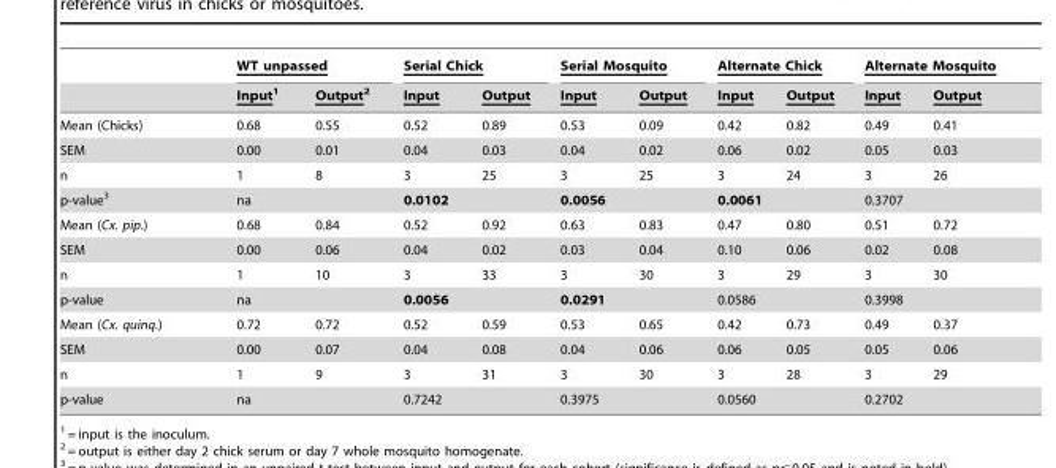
<table><thead><tr><td rowspan="2"></td><td colspan="2">WT unpassed</td><td colspan="2">Serial Chick</td><td colspan="2">Serial Mosquito</td><td colspan="2">Alternate Chick</td><td colspan="2">Alternate Mosquito</td></tr><tr><td>Input1</td><td>Output2</td><td>Input</td><td>Output</td><td>Input</td><td>Output</td><td>Input</td><td>Output</td><td>Input</td><td>Output</td></tr></thead><tbody><tr><td>Mean (Chicks)</td><td>0.68</td><td>0.55</td><td>0.52</td><td>0.89</td><td>0.53</td><td>0.09</td><td>0.42</td><td>0.82</td><td>0.49</td><td>0.41</td></tr><tr><td>SEM</td><td>0.00</td><td>0.01</td><td>0.04</td><td>0.03</td><td>0.04</td><td>0.02</td><td>0.06</td><td>0.02</td><td>0.05</td><td>0.03</td></tr><tr><td>n</td><td>1</td><td>8</td><td>3</td><td>25</td><td>3</td><td>25</td><td>3</td><td>24</td><td>3</td><td>26</td></tr><tr><td>p-value<sup>3</sup></td><td colspan="2">na</td><td colspan="2">0.0102</td><td colspan="2">0.0056</td><td colspan="2">0.0061</td><td colspan="2">0.3707</td></tr><tr><td>Mean (Cx. pip.)</td><td>0.68</td><td>0.84</td><td>0.52</td><td>0.92</td><td>0.63</td><td>0.83</td><td>0.47</td><td>0.80</td><td>0.51</td><td>0.72</td></tr><tr><td>SEM</td><td>0.00</td><td>0.06</td><td>0.04</td><td>0.02</td><td>0.03</td><td>0.04</td><td>0.10</td><td>0.06</td><td>0.02</td><td>0.08</td></tr><tr><td>n</td><td>1</td><td>10</td><td>3</td><td>33</td><td>3</td><td>30</td><td>3</td><td>29</td><td>3</td><td>30</td></tr><tr><td>p-value</td><td colspan="2">na</td><td colspan="2">0.0056</td><td colspan="2">0.0291</td><td colspan="2">0.0586</td><td colspan="2">0.3998</td></tr><tr><td>Mean (Cx. quinq.)</td><td>0.72</td><td>0.72</td><td>0.52</td><td>0.59</td><td>0.53</td><td>0.65</td><td>0.42</td><td>0.73</td><td>0.49</td><td>0.37</td></tr><tr><td>SEM</td><td>0.00</td><td>0.07</td><td>0.04</td><td>0.08</td><td>0.04</td><td>0.06</td><td>0.06</td><td>0.05</td><td>0.05</td><td>0.06</td></tr><tr><td>n</td><td>1</td><td>9</td><td>3</td><td>31</td><td>3</td><td>30</td><td>3</td><td>28</td><td>3</td><td>29</td></tr><tr><td>p-value</td><td colspan="2">na</td><td colspan="2">0.7242</td><td colspan="2">0.3975</td><td colspan="2">0.0560</td><td colspan="2">0.2702</td></tr></tbody></table>